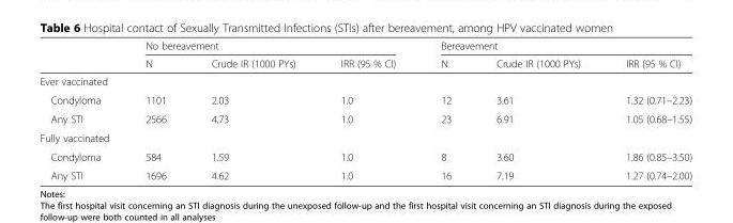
<table><thead><tr><td rowspan="2"></td><td colspan="3">No bereavement</td><td colspan="3">Bereavement</td></tr><tr><td>N</td><td>Crude IR (1000 PYs)</td><td>IRR (95 % CI)</td><td>N</td><td>Crude IR (1000 PYs)</td><td>IRR (95 % CI)</td></tr></thead><tbody><tr><td colspan="7">Ever vaccinated</td></tr><tr><td>Condyloma</td><td>1101</td><td>2.03</td><td>1.0</td><td>12</td><td>3.61</td><td>1.32 (0.71–2.23)</td></tr><tr><td>Any STI</td><td>2566</td><td>4.73</td><td>1.0</td><td>23</td><td>6.91</td><td>1.05 (0.68–1.55)</td></tr><tr><td colspan="7">Fully vaccinated</td></tr><tr><td>Condyloma</td><td>584</td><td>1.59</td><td>1.0</td><td>8</td><td>3.60</td><td>1.86 (0.85–3.50)</td></tr><tr><td>Any STI</td><td>1696</td><td>4.62</td><td>1.0</td><td>16</td><td>7.19</td><td>1.27 (0.74–2.00)</td></tr></tbody></table>